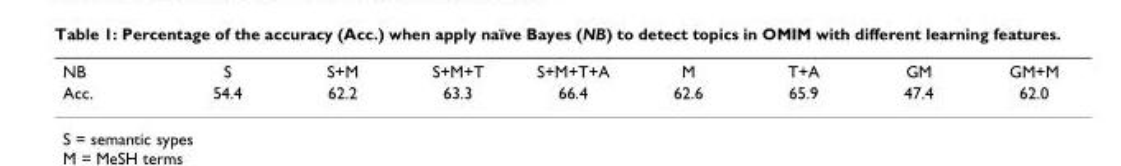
<table><tbody><tr><td>NB</td><td>S</td><td>S+M</td><td>S+M+T</td><td>S+M+T+A</td><td>M</td><td>T+A</td><td>GM</td><td>GM+M</td></tr><tr><td>Acc.</td><td>54.4</td><td>62.2</td><td>63.3</td><td>66.4</td><td>62.6</td><td>65.9</td><td>47.4</td><td>62.0</td></tr></tbody></table>